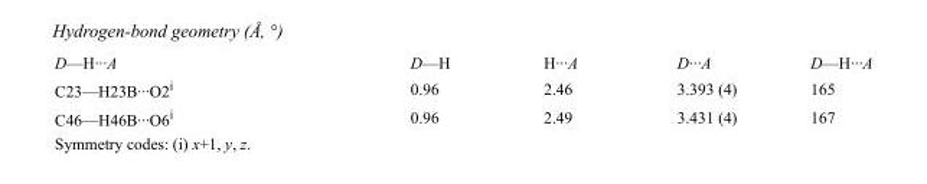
<table><tbody><tr><td>D—H···A</td><td>D—H</td><td>H···A</td><td>D···A</td><td>D—H···A</td></tr><tr><td>C23—H23B···O2<sup>i</sup></td><td>0.96</td><td>2.46</td><td>3.393 (4)</td><td>165</td></tr><tr><td>C46—H46B···O6<sup>i</sup></td><td>0.96</td><td>2.49</td><td>3.431 (4)</td><td>167</td></tr></tbody></table>